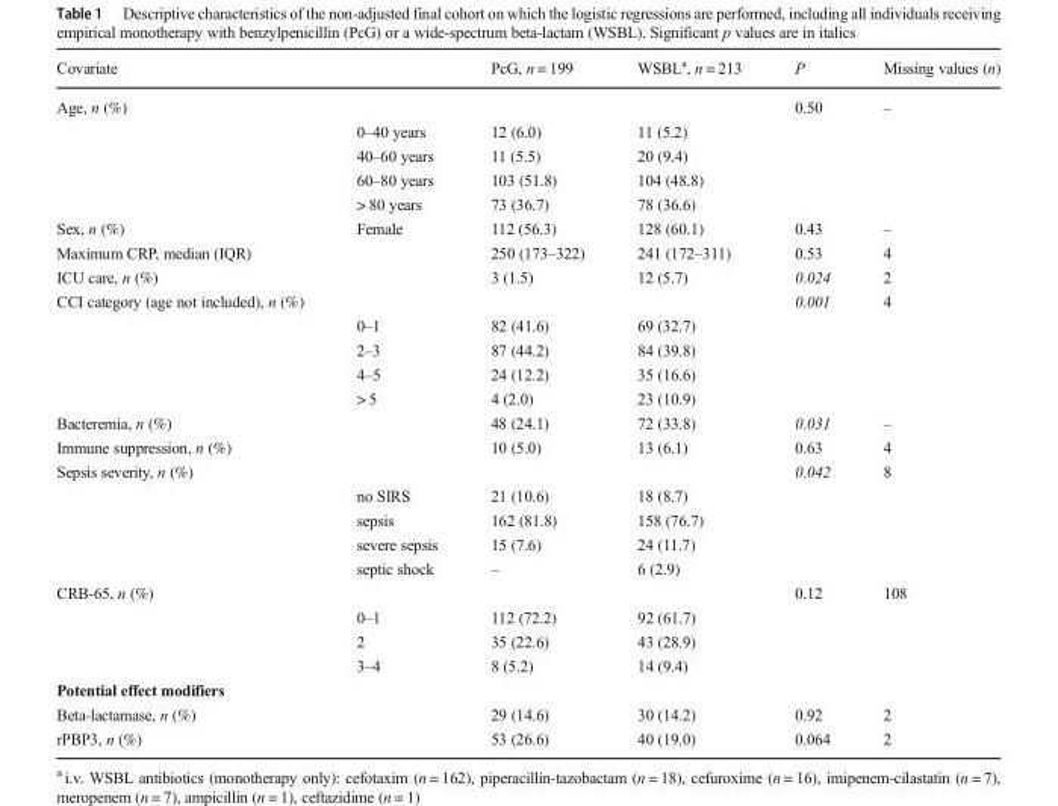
<table><thead><tr><td>Covariate</td><td></td><td>PcG, n = 199</td><td>WSBL<sup>a</sup>, n = 213</td><td>P</td><td>Missing values (n)</td></tr></thead><tbody><tr><td rowspan="5">Age, n (%)</td><td></td><td></td><td></td><td>0.50</td><td>–</td></tr><tr><td>0–40 years</td><td>12 (6.0)</td><td>11 (5.2)</td><td></td><td></td></tr><tr><td>40–60 years</td><td>11 (5.5)</td><td>20 (9.4)</td><td></td><td></td></tr><tr><td>60–80 years</td><td>103 (51.8)</td><td>104 (48.8)</td><td></td><td></td></tr><tr><td>&gt; 80 years</td><td>73 (36.7)</td><td>78 (36.6)</td><td></td><td></td></tr><tr><td>Sex, n (%)</td><td>Female</td><td>112 (56.3)</td><td>128 (60.1)</td><td>0.43</td><td>–</td></tr><tr><td>Maximum CRP, median (IQR)</td><td></td><td>250 (173–322)</td><td>241 (172–311)</td><td>0.53</td><td>4</td></tr><tr><td>ICU care, n (%)</td><td></td><td>3 (1.5)</td><td>12 (5.7)</td><td>0.024</td><td>2</td></tr><tr><td rowspan="5">CCI category (age not included), n (%)</td><td></td><td></td><td></td><td>0.001</td><td>4</td></tr><tr><td>0–1</td><td>82 (41.6)</td><td>69 (32.7)</td><td></td><td></td></tr><tr><td>2–3</td><td>87 (44.2)</td><td>84 (39.8)</td><td></td><td></td></tr><tr><td>4–5</td><td>24 (12.2)</td><td>35 (16.6)</td><td></td><td></td></tr><tr><td>&gt; 5</td><td>4 (2.0)</td><td>23 (10.9)</td><td></td><td></td></tr><tr><td>Bacteremia, n (%)</td><td></td><td>48 (24.1)</td><td>72 (33.8)</td><td>0.031</td><td>–</td></tr><tr><td>Immune suppression, n (%)</td><td></td><td>10 (5.0)</td><td>13 (6.1)</td><td>0.63</td><td>4</td></tr><tr><td rowspan="5">Sepsis severity, n (%)</td><td></td><td></td><td></td><td>0.042</td><td>8</td></tr><tr><td>no SIRS</td><td>21 (10.6)</td><td>18 (8.7)</td><td></td><td></td></tr><tr><td>sepsis</td><td>162 (81.8)</td><td>158 (76.7)</td><td></td><td></td></tr><tr><td>severe sepsis</td><td>15 (7.6)</td><td>24 (11.7)</td><td></td><td></td></tr><tr><td>septic shock</td><td>–</td><td>6 (2.9)</td><td></td><td></td></tr><tr><td rowspan="4">CRB-65, n (%)</td><td></td><td></td><td></td><td>0.12</td><td>108</td></tr><tr><td>0–1</td><td>112 (72.2)</td><td>92 (61.7)</td><td></td><td></td></tr><tr><td>2</td><td>35 (22.6)</td><td>43 (28.9)</td><td></td><td></td></tr><tr><td>3–4</td><td>8 (5.2)</td><td>14 (9.4)</td><td></td><td></td></tr><tr><td colspan="6">Potential effect modifiers</td></tr><tr><td>Beta-lactamase, n (%)</td><td></td><td>29 (14.6)</td><td>30 (14.2)</td><td>0.92</td><td>2</td></tr><tr><td>rPBP3, n (%)</td><td></td><td>53 (26.6)</td><td>40 (19.0)</td><td>0.064</td><td>2</td></tr></tbody></table>